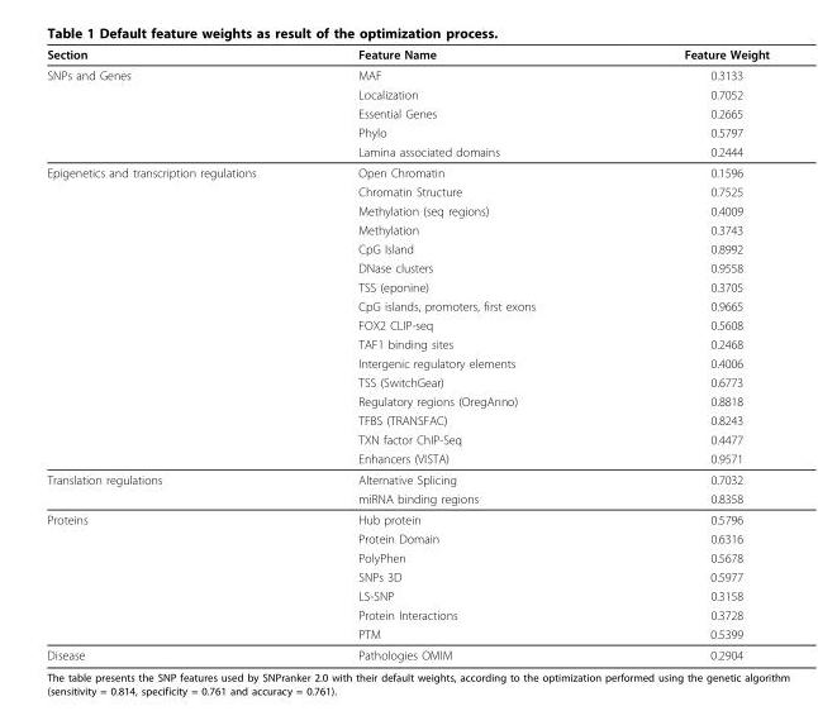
<table><thead><tr><td>Section</td><td>Feature Name</td><td>Feature Weight</td></tr></thead><tbody><tr><td rowspan="5">SNPs and Genes</td><td>MAF</td><td>0.3133</td></tr><tr><td>Localization</td><td>0.7052</td></tr><tr><td>Essential Genes</td><td>0.2665</td></tr><tr><td>Phylo</td><td>0.5797</td></tr><tr><td>Lamina associated domains</td><td>0.2444</td></tr><tr><td rowspan="16">Epigenetics and transcription regulations</td><td>Open Chromatin</td><td>0.1596</td></tr><tr><td>Chromatin Structure</td><td>0.7525</td></tr><tr><td>Methylation (seq regions)</td><td>0.4009</td></tr><tr><td>Methylation</td><td>0.3743</td></tr><tr><td>CpG Island</td><td>0.8992</td></tr><tr><td>DNase clusters</td><td>0.9558</td></tr><tr><td>TSS (eponine)</td><td>0.3705</td></tr><tr><td>CpG islands, promoters, first exons</td><td>0.9665</td></tr><tr><td>FOX2 CLIP-seq</td><td>0.5608</td></tr><tr><td>TAF1 binding sites</td><td>0.2468</td></tr><tr><td>Intergenic regulatory elements</td><td>0.4006</td></tr><tr><td>TSS (SwitchGear)</td><td>0.6773</td></tr><tr><td>Regulatory regions (OregAnno)</td><td>0.8818</td></tr><tr><td>TFBS (TRANSFAC)</td><td>0.8243</td></tr><tr><td>TXN factor ChIP-Seq</td><td>0.4477</td></tr><tr><td>Enhancers (VISTA)</td><td>0.9571</td></tr><tr><td rowspan="2">Translation regulations</td><td>Alternative Splicing</td><td>0.7032</td></tr><tr><td>miRNA binding regions</td><td>0.8358</td></tr><tr><td rowspan="7">Proteins</td><td>Hub protein</td><td>0.5796</td></tr><tr><td>Protein Domain</td><td>0.6316</td></tr><tr><td>PolyPhen</td><td>0.5678</td></tr><tr><td>SNPs 3D</td><td>0.5977</td></tr><tr><td>LS-SNP</td><td>0.3158</td></tr><tr><td>Protein Interactions</td><td>0.3728</td></tr><tr><td>PTM</td><td>0.5399</td></tr><tr><td>Disease</td><td>Pathologies OMIM</td><td>0.2904</td></tr></tbody></table>